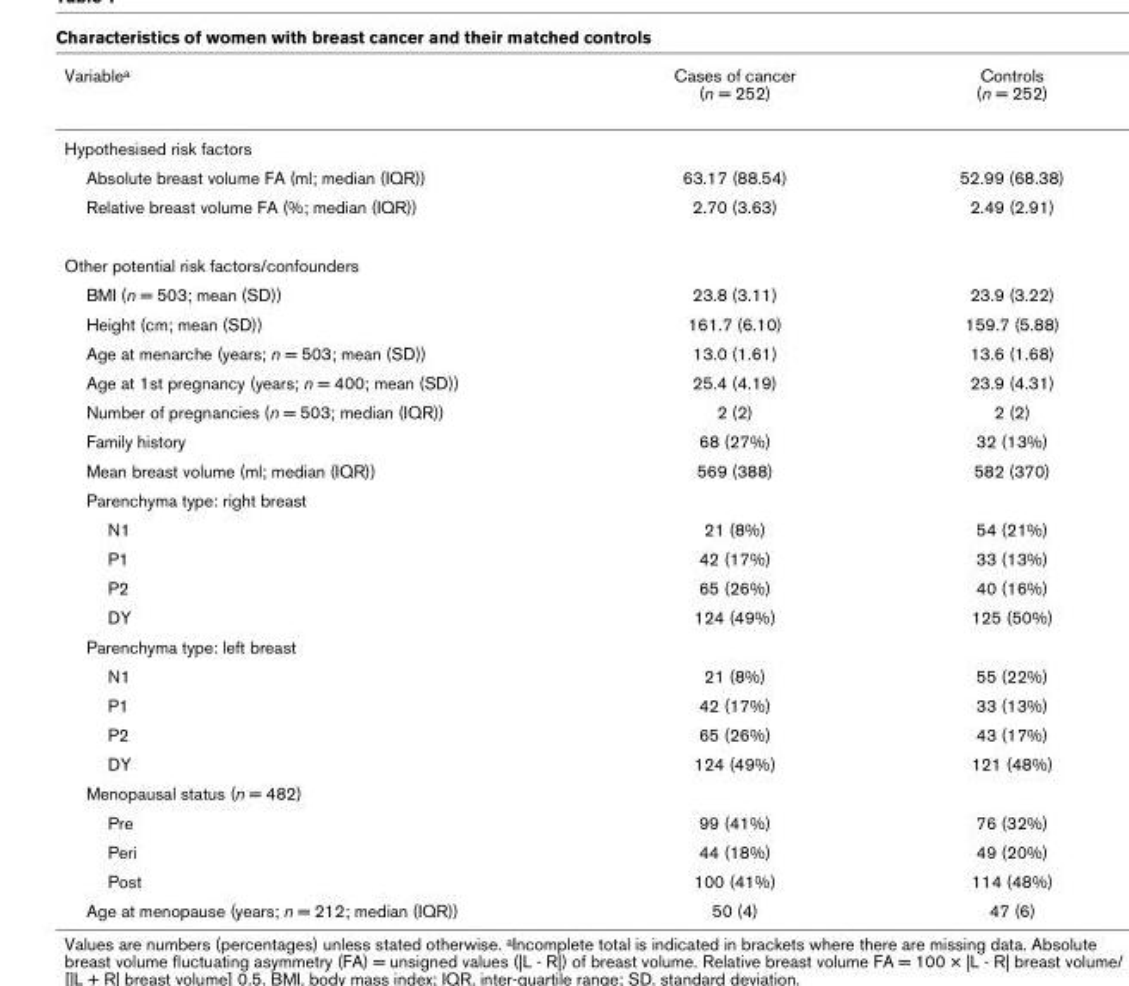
<table><thead><tr><td>Variablea</td><td>Cases of cancer (n = 252)</td><td>Controls (n = 252)</td></tr></thead><tbody><tr><td colspan="3">Hypothesised risk factors</td></tr><tr><td>Absolute breast volume FA (ml; median (IQR))</td><td>63.17 (88.54)</td><td>52.99 (68.38)</td></tr><tr><td>Relative breast volume FA (%; median (IQR))</td><td>2.70 (3.63)</td><td>2.49 (2.91)</td></tr><tr><td colspan="3">Other potential risk factors/confounders</td></tr><tr><td>BMI (n = 503; mean (SD))</td><td>23.8 (3.11)</td><td>23.9 (3.22)</td></tr><tr><td>Height (cm; mean (SD))</td><td>161.7 (6.10)</td><td>159.7 (5.88)</td></tr><tr><td>Age at menarche (years; n = 503; mean (SD))</td><td>13.0 (1.61)</td><td>13.6 (1.68)</td></tr><tr><td>Age at 1st pregnancy (years; n = 400; mean (SD))</td><td>25.4 (4.19)</td><td>23.9 (4.31)</td></tr><tr><td>Number of pregnancies (n = 503; median (IQR))</td><td>2 (2)</td><td>2 (2)</td></tr><tr><td>Family history</td><td>68 (27%)</td><td>32 (13%)</td></tr><tr><td>Mean breast volume (ml; median (IQR))</td><td>569 (388)</td><td>582 (370)</td></tr><tr><td colspan="3">Parenchyma type: right breast</td></tr><tr><td>N1</td><td>21 (8%)</td><td>54 (21%)</td></tr><tr><td>P1</td><td>42 (17%)</td><td>33 (13%)</td></tr><tr><td>P2</td><td>65 (26%)</td><td>40 (16%)</td></tr><tr><td>DY</td><td>124 (49%)</td><td>125 (50%)</td></tr><tr><td colspan="3">Parenchyma type: left breast</td></tr><tr><td>N1</td><td>21 (8%)</td><td>55 (22%)</td></tr><tr><td>P1</td><td>42 (17%)</td><td>33 (13%)</td></tr><tr><td>P2</td><td>65 (26%)</td><td>43 (17%)</td></tr><tr><td>DY</td><td>124 (49%)</td><td>121 (48%)</td></tr><tr><td colspan="3">Menopausal status (n = 482)</td></tr><tr><td>Pre</td><td>99 (41%)</td><td>76 (32%)</td></tr><tr><td>Peri</td><td>44 (18%)</td><td>49 (20%)</td></tr><tr><td>Post</td><td>100 (41%)</td><td>114 (48%)</td></tr><tr><td>Age at menopause (years; n = 212; median (IQR))</td><td>50 (4)</td><td>47 (6)</td></tr></tbody></table>